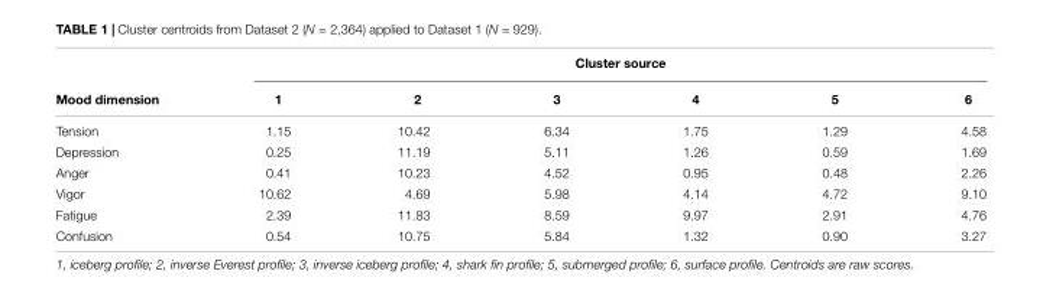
<table><thead><tr><td rowspan="2">Mood dimension</td><td colspan="6">Cluster source</td></tr><tr><td>1</td><td>2</td><td>3</td><td>4</td><td>5</td><td>6</td></tr></thead><tbody><tr><td>Tension</td><td>1.15</td><td>10.42</td><td>6.34</td><td>1.75</td><td>1.29</td><td>4.58</td></tr><tr><td>Depression</td><td>0.25</td><td>11.19</td><td>5.11</td><td>1.26</td><td>0.59</td><td>1.69</td></tr><tr><td>Anger</td><td>0.41</td><td>10.23</td><td>4.52</td><td>0.95</td><td>0.48</td><td>2.26</td></tr><tr><td>Vigor</td><td>10.62</td><td>4.69</td><td>5.98</td><td>4.14</td><td>4.72</td><td>9.10</td></tr><tr><td>Fatigue</td><td>2.39</td><td>11.83</td><td>8.59</td><td>9.97</td><td>2.91</td><td>4.76</td></tr><tr><td>Confusion</td><td>0.54</td><td>10.75</td><td>5.84</td><td>1.32</td><td>0.90</td><td>3.27</td></tr></tbody></table>